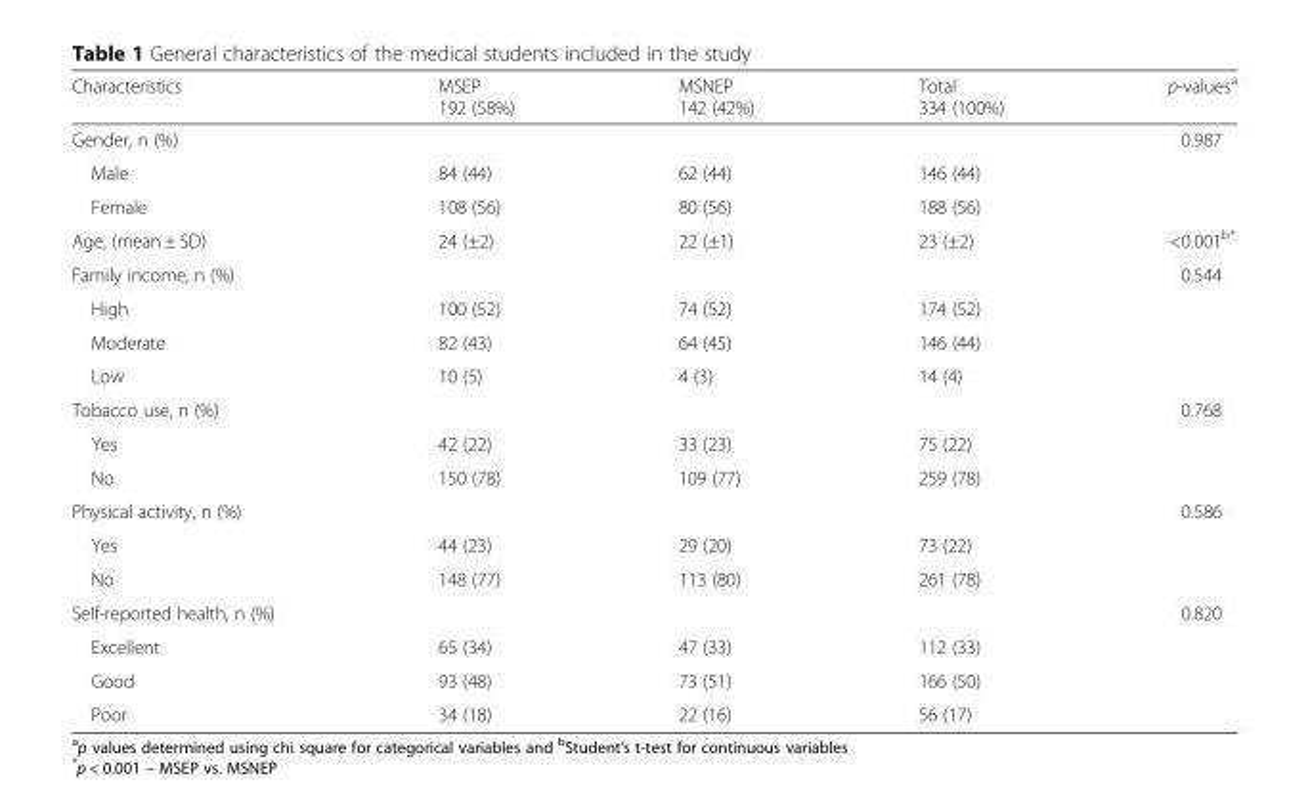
<table><thead><tr><td>Characteristics</td><td>MSEP 192 (58%)</td><td>MSNEP 142 (42%)</td><td>Total 334 (100%)</td><td>p-values<sup>a</sup></td></tr></thead><tbody><tr><td>Gender, n (%)</td><td></td><td></td><td></td><td>0.987</td></tr><tr><td>Male</td><td>84 (44)</td><td>62 (44)</td><td>146 (44)</td><td></td></tr><tr><td>Female</td><td>108 (56)</td><td>80 (56)</td><td>188 (56)</td><td></td></tr><tr><td>Age, (mean ± SD)</td><td>24 (±2)</td><td>22 (±1)</td><td>23 (±2)</td><td>&lt;0.001<sup>b*</sup></td></tr><tr><td>Family income, n (%)</td><td></td><td></td><td></td><td>0.544</td></tr><tr><td>High</td><td>100 (52)</td><td>74 (52)</td><td>174 (52)</td><td></td></tr><tr><td>Moderate</td><td>82 (43)</td><td>64 (45)</td><td>146 (44)</td><td></td></tr><tr><td>Low</td><td>10 (5)</td><td>4 (3)</td><td>14 (4)</td><td></td></tr><tr><td>Tobacco use, n (%)</td><td></td><td></td><td></td><td>0.768</td></tr><tr><td>Yes</td><td>42 (22)</td><td>33 (23)</td><td>75 (22)</td><td></td></tr><tr><td>No</td><td>150 (78)</td><td>109 (77)</td><td>259 (78)</td><td></td></tr><tr><td>Physical activity, n (%)</td><td></td><td></td><td></td><td>0.586</td></tr><tr><td>Yes</td><td>44 (23)</td><td>29 (20)</td><td>73 (22)</td><td></td></tr><tr><td>No</td><td>148 (77)</td><td>113 (80)</td><td>261 (78)</td><td></td></tr><tr><td>Self-reported health, n (%)</td><td></td><td></td><td></td><td>0.820</td></tr><tr><td>Excellent</td><td>65 (34)</td><td>47 (33)</td><td>112 (33)</td><td></td></tr><tr><td>Good</td><td>93 (48)</td><td>73 (51)</td><td>166 (50)</td><td></td></tr><tr><td>Poor</td><td>34 (18)</td><td>22 (16)</td><td>56 (17)</td><td></td></tr></tbody></table>